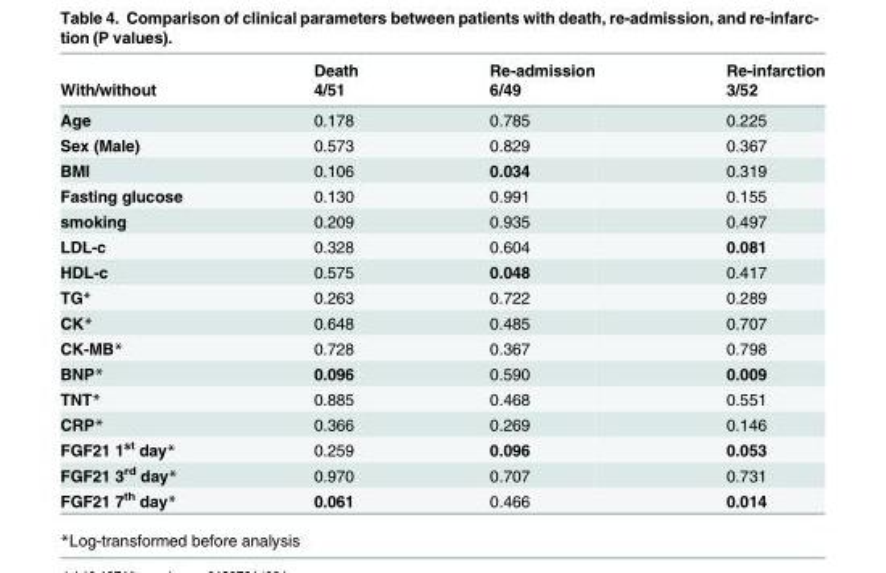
<table><thead><tr><td rowspan="2">With/without</td><td rowspan="2">Death 4/51</td><td rowspan="2">Re-admission 6/49</td><td rowspan="2">Re-infarction 3/52</td></tr><tr></tr></thead><tbody><tr><td>Age</td><td>0.178</td><td>0.785</td><td>0.225</td></tr><tr><td>Sex (Male)</td><td>0.573</td><td>0.829</td><td>0.367</td></tr><tr><td>BMI</td><td>0.106</td><td>0.034</td><td>0.319</td></tr><tr><td>Fasting glucose</td><td>0.130</td><td>0.991</td><td>0.155</td></tr><tr><td>smoking</td><td>0.209</td><td>0.935</td><td>0.497</td></tr><tr><td>LDL-c</td><td>0.328</td><td>0.604</td><td>0.081</td></tr><tr><td>HDL-c</td><td>0.575</td><td>0.048</td><td>0.417</td></tr><tr><td>TG*</td><td>0.263</td><td>0.722</td><td>0.289</td></tr><tr><td>CK*</td><td>0.648</td><td>0.485</td><td>0.707</td></tr><tr><td>CK-MB*</td><td>0.728</td><td>0.367</td><td>0.798</td></tr><tr><td>BNP*</td><td>0.096</td><td>0.590</td><td>0.009</td></tr><tr><td>TNT*</td><td>0.885</td><td>0.468</td><td>0.551</td></tr><tr><td>CRP*</td><td>0.366</td><td>0.269</td><td>0.146</td></tr><tr><td>FGF21 1<sup>st</sup> day*</td><td>0.259</td><td>0.096</td><td>0.053</td></tr><tr><td>FGF21 3<sup>rd</sup> day*</td><td>0.970</td><td>0.707</td><td>0.731</td></tr><tr><td>FGF21 7<sup>th</sup> day*</td><td>0.061</td><td>0.466</td><td>0.014</td></tr></tbody></table>